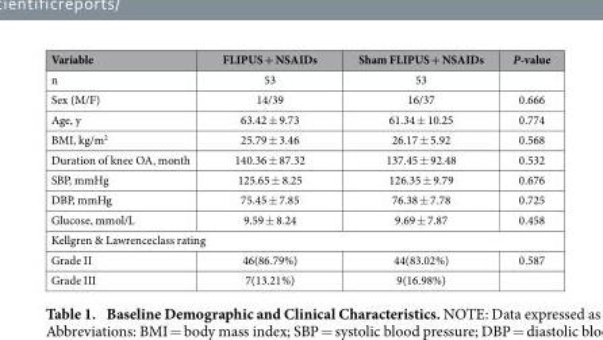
<table><thead><tr><td>Variable</td><td>FLIPUS + NSAIDs</td><td>Sham FLIPUS + NSAIDs</td><td>P-value</td></tr></thead><tbody><tr><td>n</td><td>53</td><td>53</td><td></td></tr><tr><td>Sex (M/F)</td><td>14/39</td><td>16/37</td><td>0.666</td></tr><tr><td>Age, y</td><td>63.42 ± 9.73</td><td>61.34 ± 10.25</td><td>0.774</td></tr><tr><td>BMI, kg/m<sup>2</sup></td><td>25.79 ± 3.46</td><td>26.17 ± 5.92</td><td>0.568</td></tr><tr><td>Duration of knee OA, month</td><td>140.36 ± 87.32</td><td>137.45 ± 92.48</td><td>0.532</td></tr><tr><td>SBP, mmHg</td><td>125.65 ± 8.25</td><td>126.35 ± 9.79</td><td>0.676</td></tr><tr><td>DBP, mmHg</td><td>75.45 ± 7.85</td><td>76.38 ± 7.78</td><td>0.725</td></tr><tr><td>Glucose, mmol/L</td><td>9.59 ± 8.24</td><td>9.69 ± 7.87</td><td>0.458</td></tr><tr><td colspan="4">Kellgren &amp; Lawrenceclass rating</td></tr><tr><td>Grade II</td><td>46(86.79%)</td><td>44(83.02%)</td><td>0.587</td></tr><tr><td>Grade III</td><td>7(13.21%)</td><td>9(16.98%)</td><td></td></tr></tbody></table>